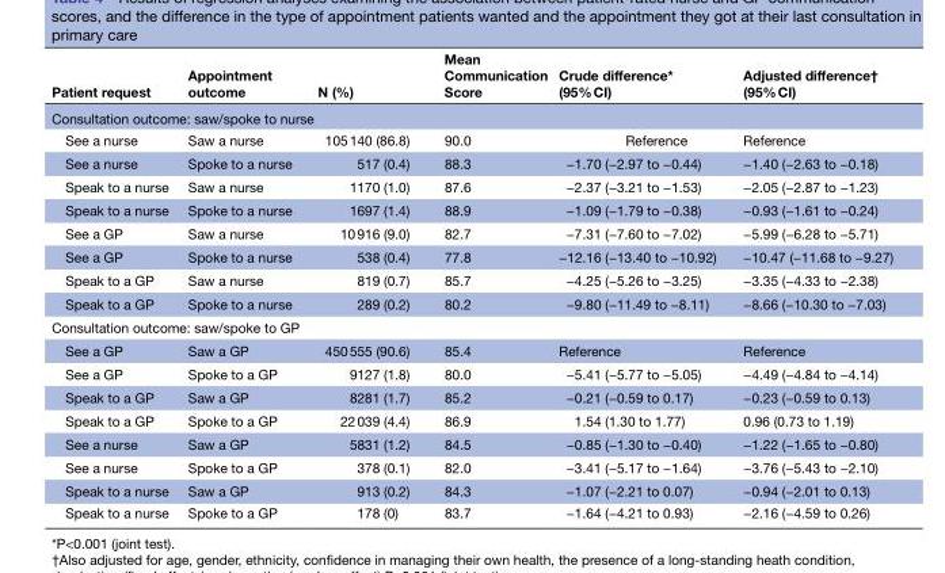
<table><thead><tr><td>Patient request</td><td>Appointment outcome</td><td>N (%)</td><td>Mean Communication Score</td><td>Crude difference* (95% CI)</td><td>Adjusted difference† (95% CI)</td></tr></thead><tbody><tr><td colspan="6">Consultation outcome: saw/spoke to nurse</td></tr><tr><td>See a nurse</td><td>Saw a nurse</td><td>105 140 (86.8)</td><td>90.0</td><td>Reference</td><td>Reference</td></tr><tr><td>See a nurse</td><td>Spoke to a nurse</td><td>517 (0.4)</td><td>88.3</td><td>−1.70 (−2.97 to −0.44)</td><td>−1.40 (−2.63 to −0.18)</td></tr><tr><td>Speak to a nurse</td><td>Saw a nurse</td><td>1170 (1.0)</td><td>87.6</td><td>−2.37 (−3.21 to −1.53)</td><td>−2.05 (−2.87 to −1.23)</td></tr><tr><td>Speak to a nurse</td><td>Spoke to a nurse</td><td>1697 (1.4)</td><td>88.9</td><td>−1.09 (−1.79 to −0.38)</td><td>−0.93 (−1.61 to −0.24)</td></tr><tr><td>See a GP</td><td>Saw a nurse</td><td>10 916 (9.0)</td><td>82.7</td><td>−7.31 (−7.60 to −7.02)</td><td>−5.99 (−6.28 to −5.71)</td></tr><tr><td>See a GP</td><td>Spoke to a nurse</td><td>538 (0.4)</td><td>77.8</td><td>−12.16 (−13.40 to −10.92)</td><td>−10.47 (−11.68 to −9.27)</td></tr><tr><td>Speak to a GP</td><td>Saw a nurse</td><td>819 (0.7)</td><td>85.7</td><td>−4.25 (−5.26 to −3.25)</td><td>−3.35 (−4.33 to −2.38)</td></tr><tr><td>Speak to a GP</td><td>Spoke to a nurse</td><td>289 (0.2)</td><td>80.2</td><td>−9.80 (−11.49 to −8.11)</td><td>−8.66 (−10.30 to −7.03)</td></tr><tr><td colspan="6">Consultation outcome: saw/spoke to GP</td></tr><tr><td>See a GP</td><td>Saw a GP</td><td>450 555 (90.6)</td><td>85.4</td><td>Reference</td><td>Reference</td></tr><tr><td>See a GP</td><td>Spoke to a GP</td><td>9127 (1.8)</td><td>80.0</td><td>−5.41 (−5.77 to −5.05)</td><td>−4.49 (−4.84 to −4.14)</td></tr><tr><td>Speak to a GP</td><td>Saw a GP</td><td>8281 (1.7)</td><td>85.2</td><td>−0.21 (−0.59 to 0.17)</td><td>−0.23 (−0.59 to 0.13)</td></tr><tr><td>Speak to a GP</td><td>Spoke to a GP</td><td>22 039 (4.4)</td><td>86.9</td><td>1.54 (1.30 to 1.77)</td><td>0.96 (0.73 to 1.19)</td></tr><tr><td>See a nurse</td><td>Saw a GP</td><td>5831 (1.2)</td><td>84.5</td><td>−0.85 (−1.30 to −0.40)</td><td>−1.22 (−1.65 to −0.80)</td></tr><tr><td>See a nurse</td><td>Spoke to a GP</td><td>378 (0.1)</td><td>82.0</td><td>−3.41 (−5.17 to −1.64)</td><td>−3.76 (−5.43 to −2.10)</td></tr><tr><td>Speak to a nurse</td><td>Saw a GP</td><td>913 (0.2)</td><td>84.3</td><td>−1.07 (−2.21 to 0.07)</td><td>−0.94 (−2.01 to 0.13)</td></tr><tr><td>Speak to a nurse</td><td>Spoke to a GP</td><td>178 (0)</td><td>83.7</td><td>−1.64 (−4.21 to 0.93)</td><td>−2.16 (−4.59 to 0.26)</td></tr></tbody></table>